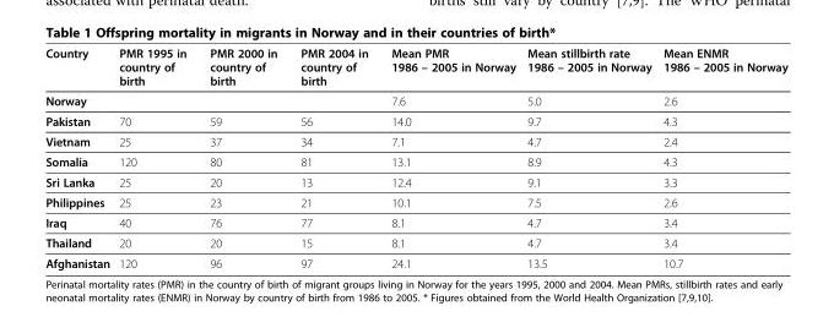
<table><thead><tr><td>Country</td><td>PMR 1995 in country of birth</td><td>PMR 2000 in country of birth</td><td>PMR 2004 in country of birth</td><td>Mean PMR 1986 – 2005 in Norway</td><td>Mean stillbirth rate 1986 – 2005 in Norway</td><td>Mean ENMR 1986 – 2005 in Norway</td></tr></thead><tbody><tr><td>Norway</td><td></td><td></td><td></td><td>7.6</td><td>5.0</td><td>2.6</td></tr><tr><td>Pakistan</td><td>70</td><td>59</td><td>56</td><td>14.0</td><td>9.7</td><td>4.3</td></tr><tr><td>Vietnam</td><td>25</td><td>37</td><td>34</td><td>7.1</td><td>4.7</td><td>2.4</td></tr><tr><td>Somalia</td><td>120</td><td>80</td><td>81</td><td>13.1</td><td>8.9</td><td>4.3</td></tr><tr><td>Sri Lanka</td><td>25</td><td>20</td><td>13</td><td>12.4</td><td>9.1</td><td>3.3</td></tr><tr><td>Philippines</td><td>25</td><td>23</td><td>21</td><td>10.1</td><td>7.5</td><td>2.6</td></tr><tr><td>Iraq</td><td>40</td><td>76</td><td>77</td><td>8.1</td><td>4.7</td><td>3.4</td></tr><tr><td>Thailand</td><td>20</td><td>20</td><td>15</td><td>8.1</td><td>4.7</td><td>3.4</td></tr><tr><td>Afghanistan</td><td>120</td><td>96</td><td>97</td><td>24.1</td><td>13.5</td><td>10.7</td></tr></tbody></table>